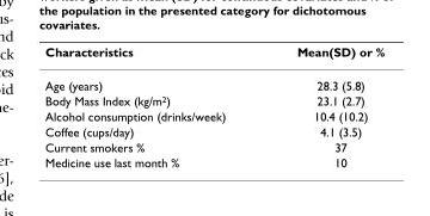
<table><thead><tr><td>Characteristics</td><td>Mean(SD) or %</td></tr></thead><tbody><tr><td>Age (years)</td><td>28.3 (5.8)</td></tr><tr><td>Body Mass Index (kg/m<sup>2</sup>)</td><td>23.1 (2.7)</td></tr><tr><td>Alcohol consumption (drinks/week)</td><td>10.4 (10.2)</td></tr><tr><td>Coffee (cups/day)</td><td>4.1 (3.5)</td></tr><tr><td>Current smokers %</td><td>37</td></tr><tr><td>Medicine use last month %</td><td>10</td></tr></tbody></table>